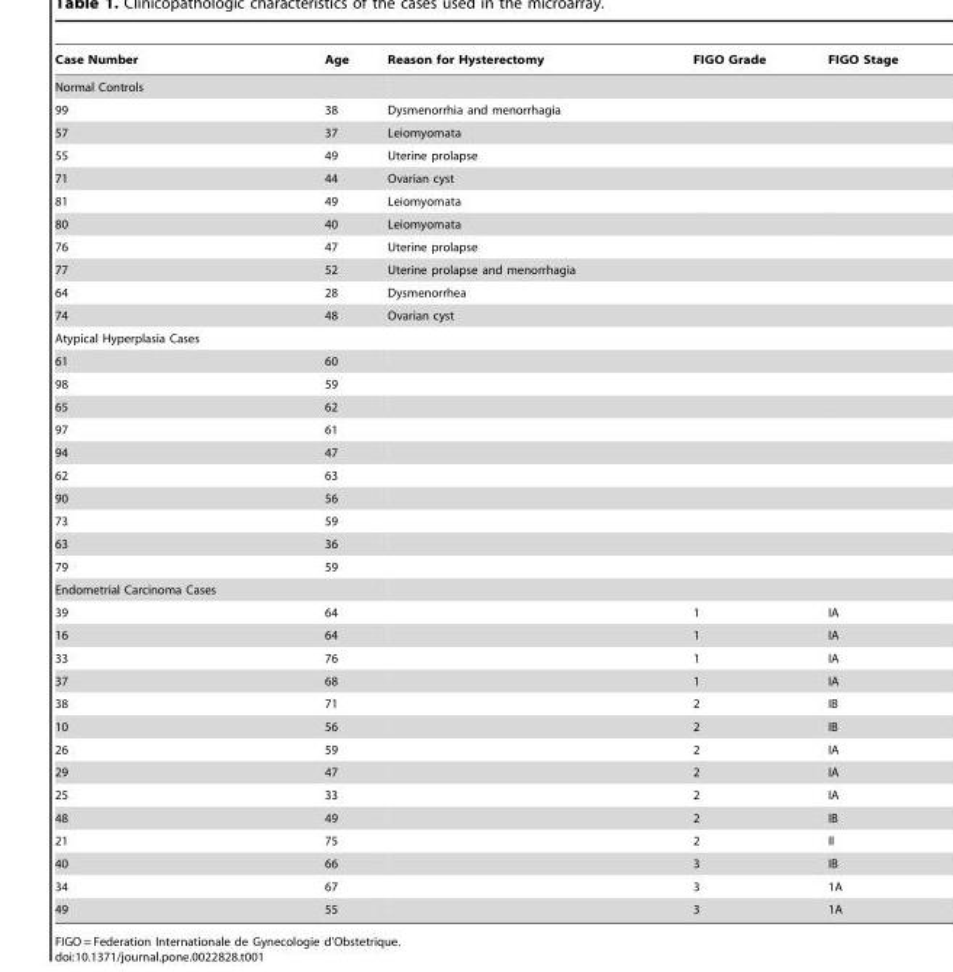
<table><thead><tr><td>Case Number</td><td>Age</td><td>Reason for Hysterectomy</td><td>FIGO Grade</td><td>FIGO Stage</td></tr></thead><tbody><tr><td colspan="5">Normal Controls</td></tr><tr><td>99</td><td>38</td><td>Dysmenorrhia and menorrhagia</td><td></td><td></td></tr><tr><td>57</td><td>37</td><td>Leiomyomata</td><td></td><td></td></tr><tr><td>55</td><td>49</td><td>Uterine prolapse</td><td></td><td></td></tr><tr><td>71</td><td>44</td><td>Ovarian cyst</td><td></td><td></td></tr><tr><td>81</td><td>49</td><td>Leiomyomata</td><td></td><td></td></tr><tr><td>80</td><td>40</td><td>Leiomyomata</td><td></td><td></td></tr><tr><td>76</td><td>47</td><td>Uterine prolapse</td><td></td><td></td></tr><tr><td>77</td><td>52</td><td>Uterine prolapse and menorrhagia</td><td></td><td></td></tr><tr><td>64</td><td>28</td><td>Dysmenorrhea</td><td></td><td></td></tr><tr><td>74</td><td>48</td><td>Ovarian cyst</td><td></td><td></td></tr><tr><td colspan="5">Atypical Hyperplasia Cases</td></tr><tr><td>61</td><td>60</td><td></td><td></td><td></td></tr><tr><td>98</td><td>59</td><td></td><td></td><td></td></tr><tr><td>65</td><td>62</td><td></td><td></td><td></td></tr><tr><td>97</td><td>61</td><td></td><td></td><td></td></tr><tr><td>94</td><td>47</td><td></td><td></td><td></td></tr><tr><td>62</td><td>63</td><td></td><td></td><td></td></tr><tr><td>90</td><td>56</td><td></td><td></td><td></td></tr><tr><td>73</td><td>59</td><td></td><td></td><td></td></tr><tr><td>63</td><td>36</td><td></td><td></td><td></td></tr><tr><td>79</td><td>59</td><td></td><td></td><td></td></tr><tr><td colspan="5">Endometrial Carcinoma Cases</td></tr><tr><td>39</td><td>64</td><td></td><td>1</td><td>IA</td></tr><tr><td>16</td><td>64</td><td></td><td>1</td><td>IA</td></tr><tr><td>33</td><td>76</td><td></td><td>1</td><td>IA</td></tr><tr><td>37</td><td>68</td><td></td><td>1</td><td>IA</td></tr><tr><td>38</td><td>71</td><td></td><td>2</td><td>IB</td></tr><tr><td>10</td><td>56</td><td></td><td>2</td><td>IB</td></tr><tr><td>26</td><td>59</td><td></td><td>2</td><td>IA</td></tr><tr><td>29</td><td>47</td><td></td><td>2</td><td>IA</td></tr><tr><td>25</td><td>33</td><td></td><td>2</td><td>IA</td></tr><tr><td>48</td><td>49</td><td></td><td>2</td><td>IB</td></tr><tr><td>21</td><td>75</td><td></td><td>2</td><td>II</td></tr><tr><td>40</td><td>66</td><td></td><td>3</td><td>IB</td></tr><tr><td>34</td><td>67</td><td></td><td>3</td><td>1A</td></tr><tr><td>49</td><td>55</td><td></td><td>3</td><td>1A</td></tr></tbody></table>